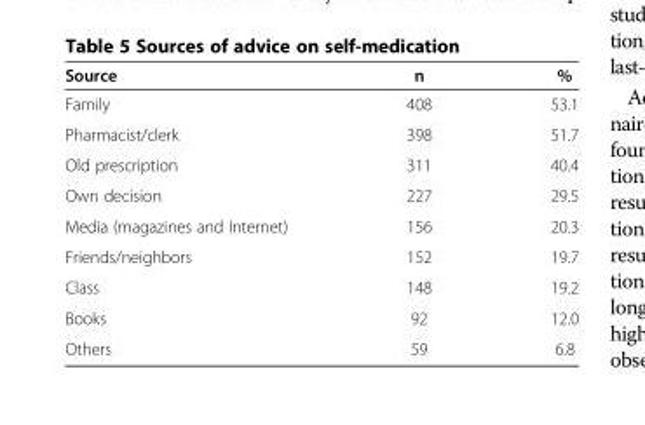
<table><thead><tr><td>Source</td><td>n</td><td>%</td></tr></thead><tbody><tr><td>Family</td><td>408</td><td>53.1</td></tr><tr><td>Pharmacist/clerk</td><td>398</td><td>51.7</td></tr><tr><td>Old prescription</td><td>311</td><td>40.4</td></tr><tr><td>Own decision</td><td>227</td><td>29.5</td></tr><tr><td>Media (magazines and Internet)</td><td>156</td><td>20.3</td></tr><tr><td>Friends/neighbors</td><td>152</td><td>19.7</td></tr><tr><td>Class</td><td>148</td><td>19.2</td></tr><tr><td>Books</td><td>92</td><td>12.0</td></tr><tr><td>Others</td><td>59</td><td>6.8</td></tr></tbody></table>